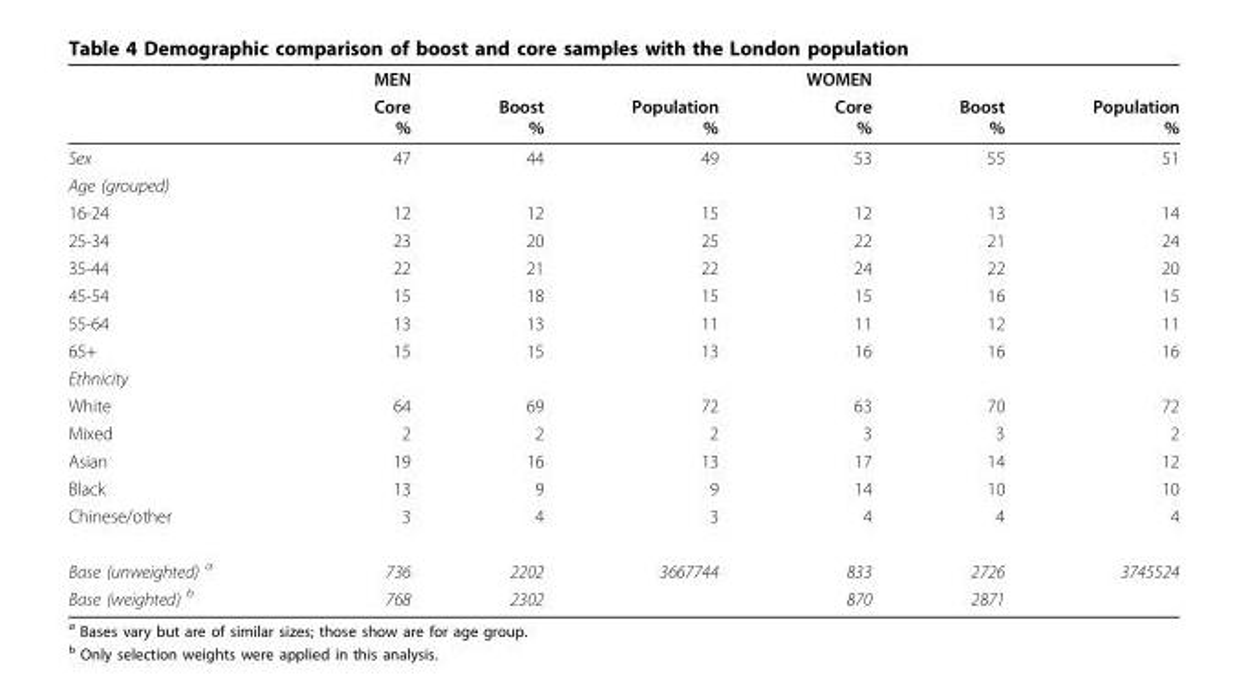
<table><thead><tr><td rowspan="2"></td><td rowspan="2">MEN Core %</td><td rowspan="2">Boost %</td><td rowspan="2">Population %</td><td rowspan="2">WOMEN Core %</td><td rowspan="2">Boost %</td><td rowspan="2">Population %</td></tr><tr></tr></thead><tbody><tr><td>Sex</td><td>47</td><td>44</td><td>49</td><td>53</td><td>55</td><td>51</td></tr><tr><td colspan="7">Age (grouped)</td></tr><tr><td>16-24</td><td>12</td><td>12</td><td>15</td><td>12</td><td>13</td><td>14</td></tr><tr><td>25-34</td><td>23</td><td>20</td><td>25</td><td>22</td><td>21</td><td>24</td></tr><tr><td>35-44</td><td>22</td><td>21</td><td>22</td><td>24</td><td>22</td><td>20</td></tr><tr><td>45-54</td><td>15</td><td>18</td><td>15</td><td>15</td><td>16</td><td>15</td></tr><tr><td>55-64</td><td>13</td><td>13</td><td>11</td><td>11</td><td>12</td><td>11</td></tr><tr><td>65+</td><td>15</td><td>15</td><td>13</td><td>16</td><td>16</td><td>16</td></tr><tr><td colspan="7">Ethnicity</td></tr><tr><td>White</td><td>64</td><td>69</td><td>72</td><td>63</td><td>70</td><td>72</td></tr><tr><td>Mixed</td><td>2</td><td>2</td><td>2</td><td>3</td><td>3</td><td>2</td></tr><tr><td>Asian</td><td>19</td><td>16</td><td>13</td><td>17</td><td>14</td><td>12</td></tr><tr><td>Black</td><td>13</td><td>9</td><td>9</td><td>14</td><td>10</td><td>10</td></tr><tr><td>Chinese/other</td><td>3</td><td>4</td><td>3</td><td>4</td><td>4</td><td>4</td></tr><tr><td>Base (unweighted) <sup>a</sup></td><td>736</td><td>2202</td><td>3667744</td><td>833</td><td>2726</td><td>3745524</td></tr><tr><td>Base (weighted) <sup>b</sup></td><td>768</td><td>2302</td><td></td><td>870</td><td>2871</td><td></td></tr></tbody></table>